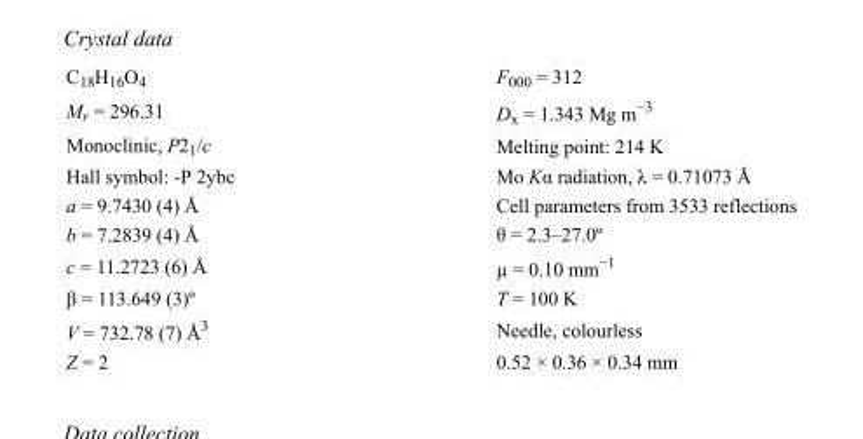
<table><tbody><tr><td>C<sub>18</sub>H<sub>16</sub>O<sub>4</sub></td><td>F000 = 312</td></tr><tr><td>M<sub>r</sub> = 296.31</td><td>D<sub>x</sub> = 1.343 Mg m<sup>−3</sup></td></tr><tr><td>Monoclinic, P2<sub>1</sub>/c</td><td>Melting point: 214 K</td></tr><tr><td>Hall symbol: -P 2ybc</td><td>Mo Kα radiation, λ = 0.71073 Å</td></tr><tr><td>a = 9.7430 (4) Å</td><td>Cell parameters from 3533 reflections</td></tr><tr><td>b = 7.2839 (4) Å</td><td>θ = 2.3–27.0º</td></tr><tr><td>c = 11.2723 (6) Å</td><td>µ = 0.10 mm<sup>−1</sup></td></tr><tr><td>β = 113.649 (3)º</td><td>T = 100 K</td></tr><tr><td>V = 732.78 (7) Å<sup>3</sup></td><td>Needle, colourless</td></tr><tr><td>Z = 2</td><td>0.52 × 0.36 × 0.34 mm</td></tr></tbody></table>